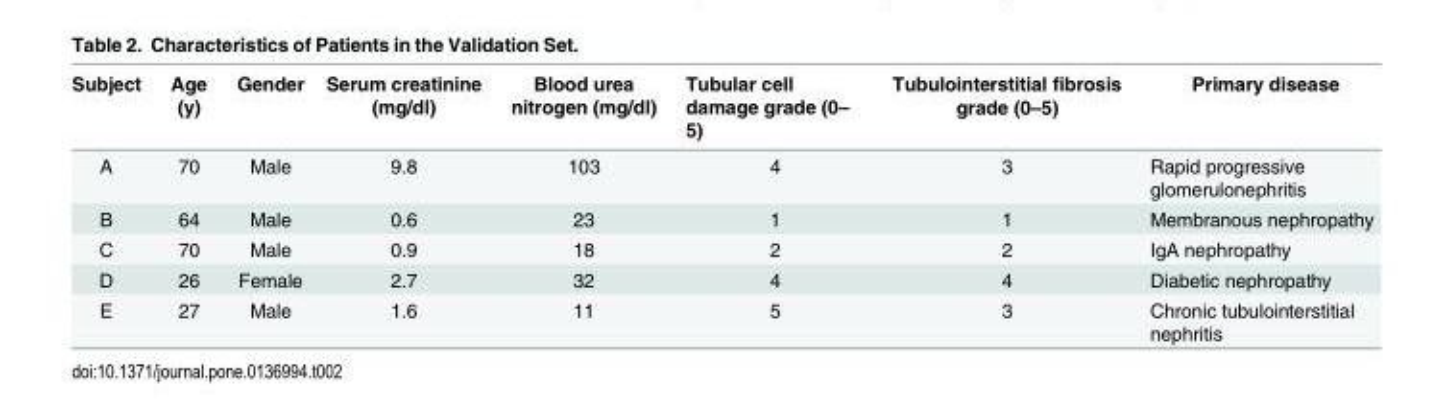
<table><thead><tr><td>Subject</td><td>Age (y)</td><td>Gender</td><td>Serum creatinine (mg/dl)</td><td>Blood urea nitrogen (mg/dl)</td><td>Tubular cell damage grade (0– 5)</td><td>Tubulointerstitial fibrosis grade (0–5)</td><td>Primary disease</td></tr></thead><tbody><tr><td>A</td><td>70</td><td>Male</td><td>9.8</td><td>103</td><td>4</td><td>3</td><td>Rapid progressive glomerulonephritis</td></tr><tr><td>B</td><td>64</td><td>Male</td><td>0.6</td><td>23</td><td>1</td><td>1</td><td>Membranous nephropathy</td></tr><tr><td>C</td><td>70</td><td>Male</td><td>0.9</td><td>18</td><td>2</td><td>2</td><td>IgA nephropathy</td></tr><tr><td>D</td><td>26</td><td>Female</td><td>2.7</td><td>32</td><td>4</td><td>4</td><td>Diabetic nephropathy</td></tr><tr><td>E</td><td>27</td><td>Male</td><td>1.6</td><td>11</td><td>5</td><td>3</td><td>Chronic tubulointerstitial nephritis</td></tr></tbody></table>